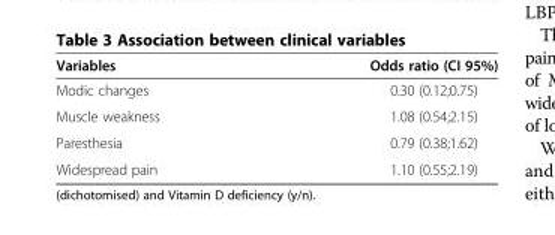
<table><thead><tr><td>Variables</td><td>Odds ratio (CI 95%)</td></tr></thead><tbody><tr><td>Modic changes</td><td>0.30 (0.12;0.75)</td></tr><tr><td>Muscle weakness</td><td>1.08 (0.54;2.15)</td></tr><tr><td>Paresthesia</td><td>0.79 (0.38;1.62)</td></tr><tr><td>Widespread pain</td><td>1.10 (0.55;2.19)</td></tr></tbody></table>